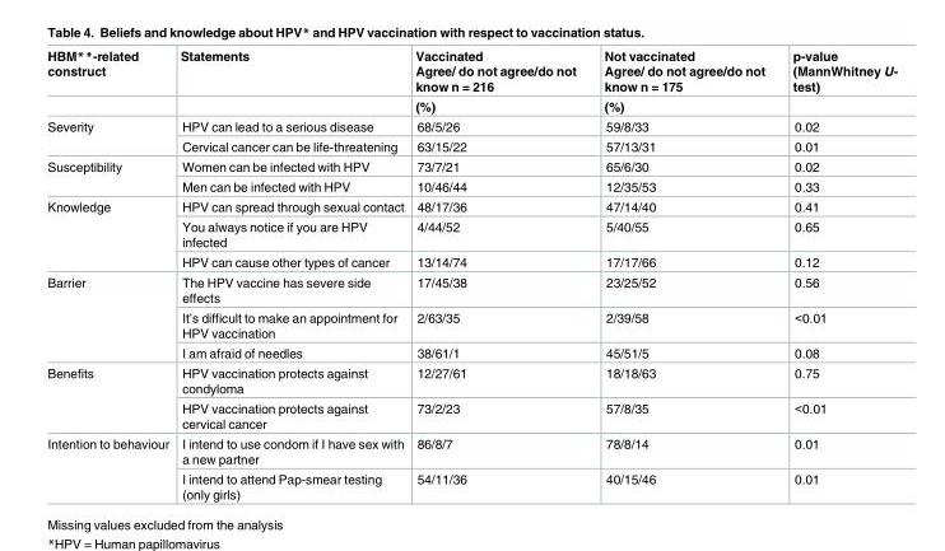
<table><thead><tr><td rowspan="2">HBM**-related construct</td><td rowspan="2">Statements</td><td rowspan="2">Vaccinated Agree/ do not agree/do not know n = 216 (%)</td><td rowspan="2">Not vaccinated Agree/ do not agree/do not know n = 175 (%)</td><td rowspan="2">p-value (MannWhitney U- test)</td></tr><tr></tr></thead><tbody><tr><td rowspan="2">Severity</td><td>HPV can lead to a serious disease</td><td>68/5/26</td><td>59/8/33</td><td>0.02</td></tr><tr><td>Cervical cancer can be life-threatening</td><td>63/15/22</td><td>57/13/31</td><td>0.01</td></tr><tr><td rowspan="2">Susceptibility</td><td>Women can be infected with HPV</td><td>73/7/21</td><td>65/6/30</td><td>0.02</td></tr><tr><td>Men can be infected with HPV</td><td>10/46/44</td><td>12/35/53</td><td>0.33</td></tr><tr><td rowspan="3">Knowledge</td><td>HPV can spread through sexual contact</td><td>48/17/36</td><td>47/14/40</td><td>0.41</td></tr><tr><td>You always notice if you are HPV infected</td><td>4/44/52</td><td>5/40/55</td><td>0.65</td></tr><tr><td>HPV can cause other types of cancer</td><td>13/14/74</td><td>17/17/66</td><td>0.12</td></tr><tr><td rowspan="3">Barrier</td><td>The HPV vaccine has severe side effects</td><td>17/45/38</td><td>23/25/52</td><td>0.56</td></tr><tr><td>It’s difficult to make an appointment for HPV vaccination</td><td>2/63/35</td><td>2/39/58</td><td>&lt;0.01</td></tr><tr><td>I am afraid of needles</td><td>38/61/1</td><td>45/51/5</td><td>0.08</td></tr><tr><td rowspan="2">Benefits</td><td>HPV vaccination protects against condyloma</td><td>12/27/61</td><td>18/18/63</td><td>0.75</td></tr><tr><td>HPV vaccination protects against cervical cancer</td><td>73/2/23</td><td>57/8/35</td><td>&lt;0.01</td></tr><tr><td rowspan="2">Intention to behaviour</td><td>I intend to use condom if I have sex with a new partner</td><td>86/8/7</td><td>78/8/14</td><td>0.01</td></tr><tr><td>I intend to attend Pap-smear testing (only girls)</td><td>54/11/36</td><td>40/15/46</td><td>0.01</td></tr></tbody></table>